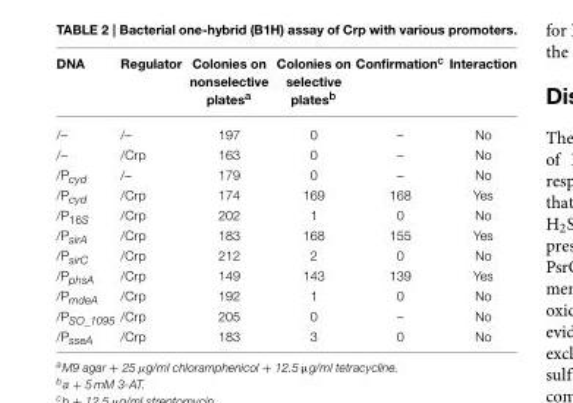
<table><thead><tr><td>DNA</td><td>Regulator</td><td>Colonies on nonselective plates<sup>a</sup></td><td>Colonies on selective plates<sup>b</sup></td><td>Confirmation<sup>c</sup></td><td>Interaction</td></tr></thead><tbody><tr><td>/–</td><td>/–</td><td>197</td><td>0</td><td>–</td><td>No</td></tr><tr><td>/–</td><td>/Crp</td><td>163</td><td>0</td><td>–</td><td>No</td></tr><tr><td>/P<sub>cyd</sub></td><td>/–</td><td>179</td><td>0</td><td>–</td><td>No</td></tr><tr><td>/P<sub>cyd</sub></td><td>/Crp</td><td>174</td><td>169</td><td>168</td><td>Yes</td></tr><tr><td>/P<sub>16S</sub></td><td>/Crp</td><td>202</td><td>1</td><td>0</td><td>No</td></tr><tr><td>/P<sub>sirA</sub></td><td>/Crp</td><td>183</td><td>168</td><td>155</td><td>Yes</td></tr><tr><td>/P<sub>sirC</sub></td><td>/Crp</td><td>212</td><td>2</td><td>0</td><td>No</td></tr><tr><td>/P<sub>phsA</sub></td><td>/Crp</td><td>149</td><td>143</td><td>139</td><td>Yes</td></tr><tr><td>/P<sub>mdeA</sub></td><td>/Crp</td><td>192</td><td>1</td><td>0</td><td>No</td></tr><tr><td>/P<sub>SO_1095</sub></td><td>/Crp</td><td>205</td><td>0</td><td>–</td><td>No</td></tr><tr><td>/P<sub>sseA</sub></td><td>/Crp</td><td>183</td><td>3</td><td>0</td><td>No</td></tr></tbody></table>